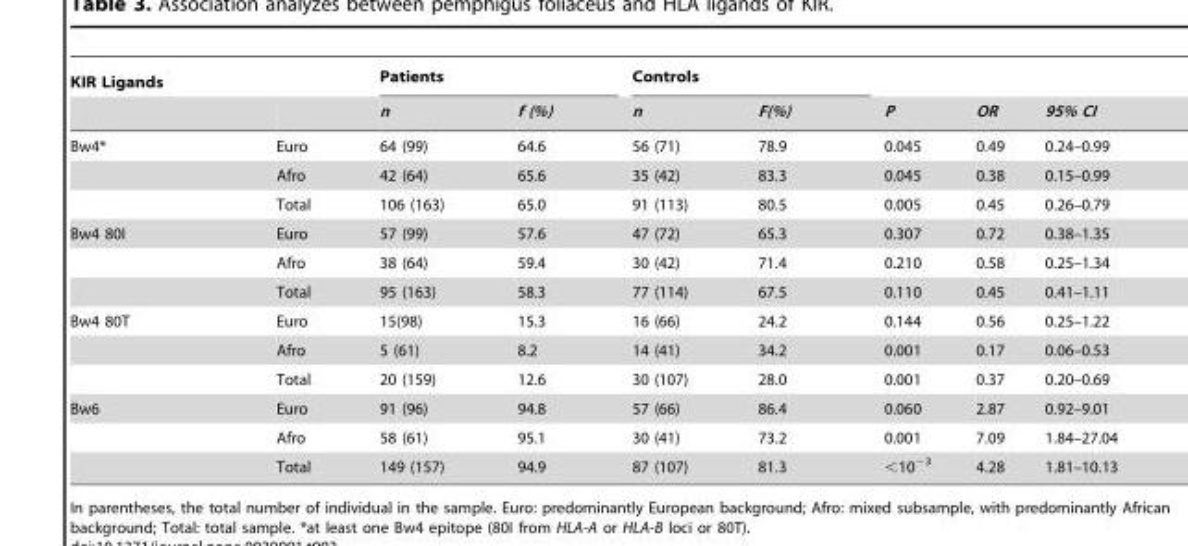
<table><thead><tr><td rowspan="2">KIR Ligands</td><td rowspan="2"></td><td colspan="2">Patients</td><td colspan="2">Controls</td><td rowspan="2">P</td><td rowspan="2">OR</td><td rowspan="2">95% CI</td></tr><tr><td>n</td><td>f (%)</td><td>n</td><td>F(%)</td></tr></thead><tbody><tr><td rowspan="3">Bw4*</td><td>Euro</td><td>64 (99)</td><td>64.6</td><td>56 (71)</td><td>78.9</td><td>0.045</td><td>0.49</td><td>0.24–0.99</td></tr><tr><td>Afro</td><td>42 (64)</td><td>65.6</td><td>35 (42)</td><td>83.3</td><td>0.045</td><td>0.38</td><td>0.15–0.99</td></tr><tr><td>Total</td><td>106 (163)</td><td>65.0</td><td>91 (113)</td><td>80.5</td><td>0.005</td><td>0.45</td><td>0.26–0.79</td></tr><tr><td rowspan="3">Bw4 80I</td><td>Euro</td><td>57 (99)</td><td>57.6</td><td>47 (72)</td><td>65.3</td><td>0.307</td><td>0.72</td><td>0.38–1.35</td></tr><tr><td>Afro</td><td>38 (64)</td><td>59.4</td><td>30 (42)</td><td>71.4</td><td>0.210</td><td>0.58</td><td>0.25–1.34</td></tr><tr><td>Total</td><td>95 (163)</td><td>58.3</td><td>77 (114)</td><td>67.5</td><td>0.110</td><td>0.45</td><td>0.41–1.11</td></tr><tr><td rowspan="3">Bw4 80T</td><td>Euro</td><td>15(98)</td><td>15.3</td><td>16 (66)</td><td>24.2</td><td>0.144</td><td>0.56</td><td>0.25–1.22</td></tr><tr><td>Afro</td><td>5 (61)</td><td>8.2</td><td>14 (41)</td><td>34.2</td><td>0.001</td><td>0.17</td><td>0.06–0.53</td></tr><tr><td>Total</td><td>20 (159)</td><td>12.6</td><td>30 (107)</td><td>28.0</td><td>0.001</td><td>0.37</td><td>0.20–0.69</td></tr><tr><td rowspan="3">Bw6</td><td>Euro</td><td>91 (96)</td><td>94.8</td><td>57 (66)</td><td>86.4</td><td>0.060</td><td>2.87</td><td>0.92–9.01</td></tr><tr><td>Afro</td><td>58 (61)</td><td>95.1</td><td>30 (41)</td><td>73.2</td><td>0.001</td><td>7.09</td><td>1.84–27.04</td></tr><tr><td>Total</td><td>149 (157)</td><td>94.9</td><td>87 (107)</td><td>81.3</td><td>&lt;10<sup>−3</sup></td><td>4.28</td><td>1.81–10.13</td></tr></tbody></table>